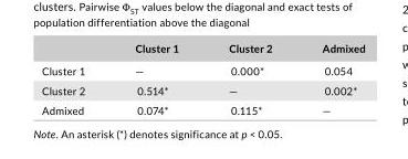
<table><thead><tr><td></td><td>Cluster 1</td><td>Cluster 2</td><td>Admixed</td></tr></thead><tbody><tr><td>Cluster 1</td><td>—</td><td>0.000*</td><td>0.054</td></tr><tr><td>Cluster 2</td><td>0.514*</td><td>—</td><td>0.002*</td></tr><tr><td>Admixed</td><td>0.074*</td><td>0.115*</td><td>—</td></tr></tbody></table>